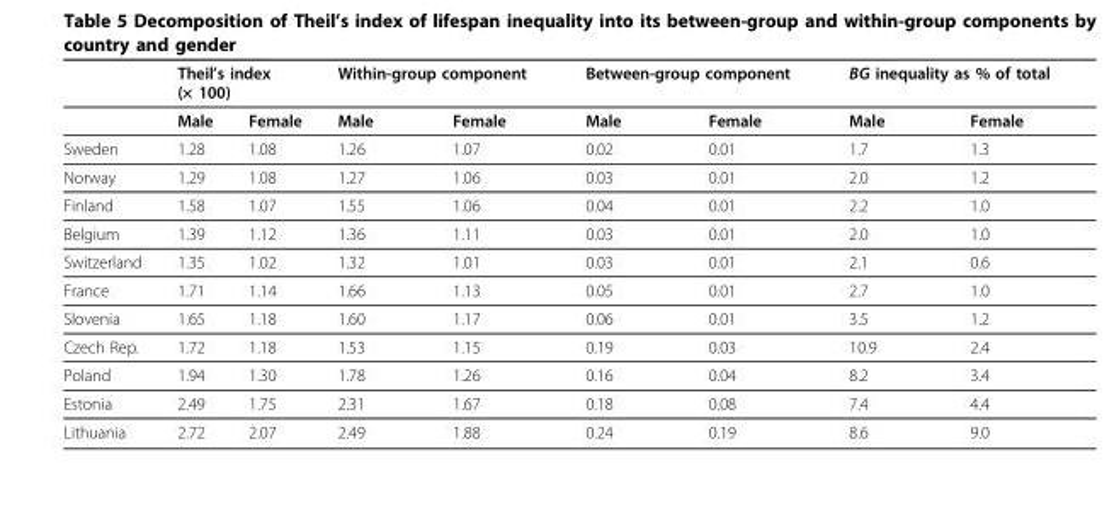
<table><thead><tr><td rowspan="2"></td><td colspan="2">Theil’s index (× 100)</td><td colspan="2">Within-group component</td><td colspan="2">Between-group component</td><td colspan="2">BG inequality as % of total</td></tr><tr><td>Male</td><td>Female</td><td>Male</td><td>Female</td><td>Male</td><td>Female</td><td>Male</td><td>Female</td></tr></thead><tbody><tr><td>Sweden</td><td>1.28</td><td>1.08</td><td>1.26</td><td>1.07</td><td>0.02</td><td>0.01</td><td>1.7</td><td>1.3</td></tr><tr><td>Norway</td><td>1.29</td><td>1.08</td><td>1.27</td><td>1.06</td><td>0.03</td><td>0.01</td><td>2.0</td><td>1.2</td></tr><tr><td>Finland</td><td>1.58</td><td>1.07</td><td>1.55</td><td>1.06</td><td>0.04</td><td>0.01</td><td>2.2</td><td>1.0</td></tr><tr><td>Belgium</td><td>1.39</td><td>1.12</td><td>1.36</td><td>1.11</td><td>0.03</td><td>0.01</td><td>2.0</td><td>1.0</td></tr><tr><td>Switzerland</td><td>1.35</td><td>1.02</td><td>1.32</td><td>1.01</td><td>0.03</td><td>0.01</td><td>2.1</td><td>0.6</td></tr><tr><td>France</td><td>1.71</td><td>1.14</td><td>1.66</td><td>1.13</td><td>0.05</td><td>0.01</td><td>2.7</td><td>1.0</td></tr><tr><td>Slovenia</td><td>1.65</td><td>1.18</td><td>1.60</td><td>1.17</td><td>0.06</td><td>0.01</td><td>3.5</td><td>1.2</td></tr><tr><td>Czech Rep.</td><td>1.72</td><td>1.18</td><td>1.53</td><td>1.15</td><td>0.19</td><td>0.03</td><td>10.9</td><td>2.4</td></tr><tr><td>Poland</td><td>1.94</td><td>1.30</td><td>1.78</td><td>1.26</td><td>0.16</td><td>0.04</td><td>8.2</td><td>3.4</td></tr><tr><td>Estonia</td><td>2.49</td><td>1.75</td><td>2.31</td><td>1.67</td><td>0.18</td><td>0.08</td><td>7.4</td><td>4.4</td></tr><tr><td>Lithuania</td><td>2.72</td><td>2.07</td><td>2.49</td><td>1.88</td><td>0.24</td><td>0.19</td><td>8.6</td><td>9.0</td></tr></tbody></table>